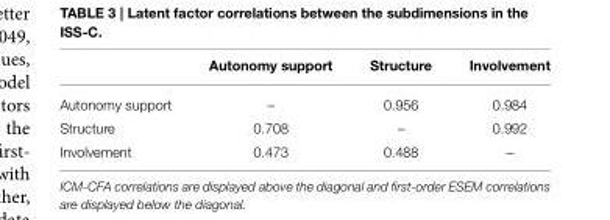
<table><thead><tr><td></td><td>Autonomy support</td><td>Structure</td><td>Involvement</td></tr></thead><tbody><tr><td>Autonomy support</td><td>–</td><td>0.956</td><td>0.984</td></tr><tr><td>Structure</td><td>0.708</td><td>–</td><td>0.992</td></tr><tr><td>Involvement</td><td>0.473</td><td>0.488</td><td>–</td></tr></tbody></table>